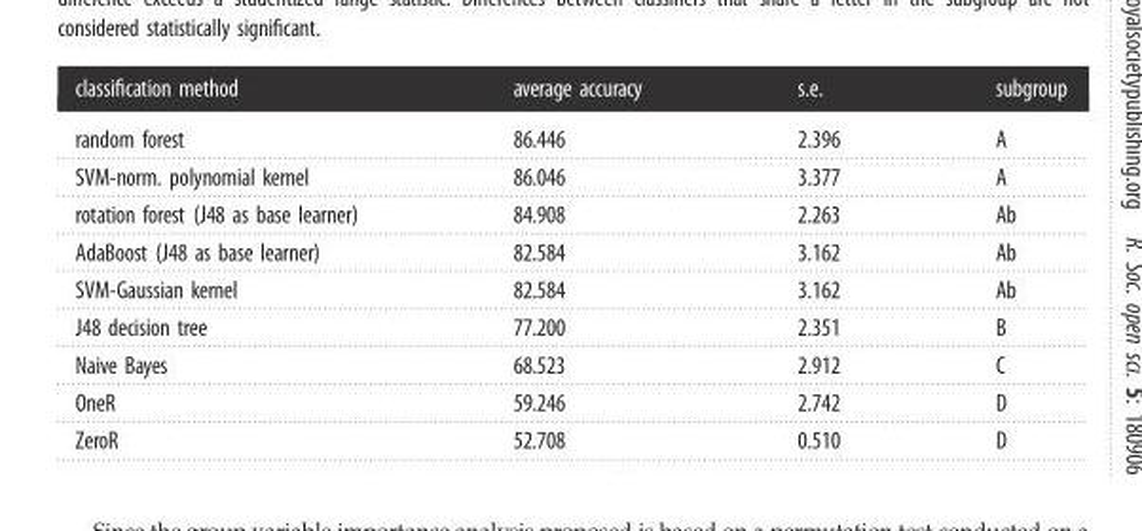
<table><thead><tr><td>classification method</td><td>average accuracy</td><td>s.e.</td><td>subgroup</td></tr></thead><tbody><tr><td>random forest</td><td>86.446</td><td>2.396</td><td>A</td></tr><tr><td>SVM-norm. polynomial kernel</td><td>86.046</td><td>3.377</td><td>A</td></tr><tr><td>rotation forest (J48 as base learner)</td><td>84.908</td><td>2.263</td><td>Ab</td></tr><tr><td>AdaBoost (J48 as base learner)</td><td>82.584</td><td>3.162</td><td>Ab</td></tr><tr><td>SVM-Gaussian kernel</td><td>82.584</td><td>3.162</td><td>Ab</td></tr><tr><td>J48 decision tree</td><td>77.200</td><td>2.351</td><td>B</td></tr><tr><td>Naive Bayes</td><td>68.523</td><td>2.912</td><td>C</td></tr><tr><td>OneR</td><td>59.246</td><td>2.742</td><td>D</td></tr><tr><td>ZeroR</td><td>52.708</td><td>0.510</td><td>D</td></tr></tbody></table>